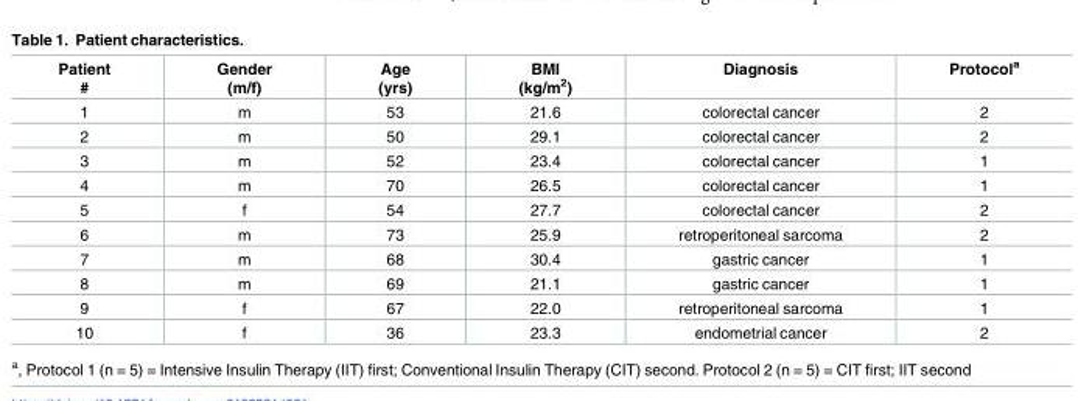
<table><thead><tr><td>Patient #</td><td>Gender (m/f)</td><td>Age (yrs)</td><td>BMI (kg/m<sup>2</sup>)</td><td>Diagnosis</td><td>Protocol<sup>a</sup></td></tr></thead><tbody><tr><td>1</td><td>m</td><td>53</td><td>21.6</td><td>colorectal cancer</td><td>2</td></tr><tr><td>2</td><td>m</td><td>50</td><td>29.1</td><td>colorectal cancer</td><td>2</td></tr><tr><td>3</td><td>m</td><td>52</td><td>23.4</td><td>colorectal cancer</td><td>1</td></tr><tr><td>4</td><td>m</td><td>70</td><td>26.5</td><td>colorectal cancer</td><td>1</td></tr><tr><td>5</td><td>f</td><td>54</td><td>27.7</td><td>colorectal cancer</td><td>2</td></tr><tr><td>6</td><td>m</td><td>73</td><td>25.9</td><td>retroperitoneal sarcoma</td><td>2</td></tr><tr><td>7</td><td>m</td><td>68</td><td>30.4</td><td>gastric cancer</td><td>1</td></tr><tr><td>8</td><td>m</td><td>69</td><td>21.1</td><td>gastric cancer</td><td>1</td></tr><tr><td>9</td><td>f</td><td>67</td><td>22.0</td><td>retroperitoneal sarcoma</td><td>1</td></tr><tr><td>10</td><td>f</td><td>36</td><td>23.3</td><td>endometrial cancer</td><td>2</td></tr></tbody></table>